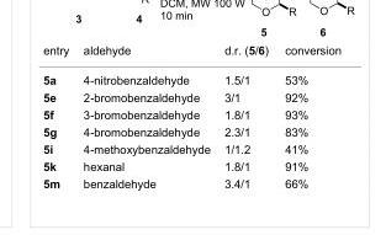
<table><tbody><tr><td>entry</td><td>aldehyde</td><td>d.r. (5/6)</td><td>conversion</td></tr><tr><td>5a</td><td>4-nitrobenzaldehyde</td><td>1.5/1</td><td>53%</td></tr><tr><td>5e</td><td>2-bromobenzaldehyde</td><td>3/1</td><td>92%</td></tr><tr><td>5f</td><td>3-bromobenzaldehyde</td><td>1.8/1</td><td>93%</td></tr><tr><td>5g</td><td>4-bromobenzaldehyde</td><td>2.3/1</td><td>83%</td></tr><tr><td>5i</td><td>4-methoxybenzaldehyde</td><td>1/1.2</td><td>41%</td></tr><tr><td>5k</td><td>hexanal</td><td>1.8/1</td><td>91%</td></tr><tr><td>5m</td><td>benzaldehyde</td><td>3.4/1</td><td>66%</td></tr></tbody></table>